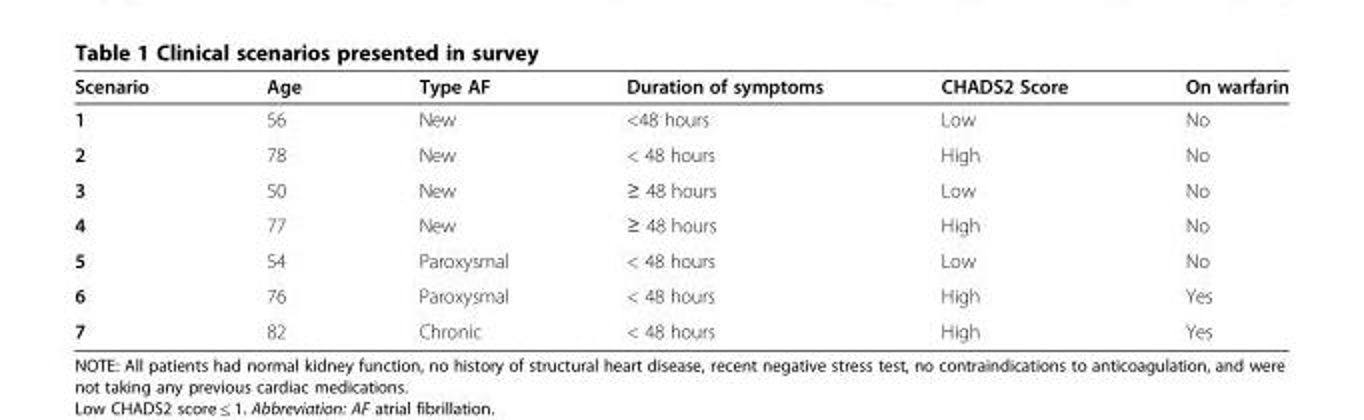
<table><thead><tr><td>Scenario</td><td>Age</td><td>Type AF</td><td>Duration of symptoms</td><td>CHADS2 Score</td><td>On warfarin</td></tr></thead><tbody><tr><td>1</td><td>56</td><td>New</td><td>&lt;48 hours</td><td>Low</td><td>No</td></tr><tr><td>2</td><td>78</td><td>New</td><td>&lt; 48 hours</td><td>High</td><td>No</td></tr><tr><td>3</td><td>50</td><td>New</td><td>≥ 48 hours</td><td>Low</td><td>No</td></tr><tr><td>4</td><td>77</td><td>New</td><td>≥ 48 hours</td><td>High</td><td>No</td></tr><tr><td>5</td><td>54</td><td>Paroxysmal</td><td>&lt; 48 hours</td><td>Low</td><td>No</td></tr><tr><td>6</td><td>76</td><td>Paroxysmal</td><td>&lt; 48 hours</td><td>High</td><td>Yes</td></tr><tr><td>7</td><td>82</td><td>Chronic</td><td>&lt; 48 hours</td><td>High</td><td>Yes</td></tr></tbody></table>